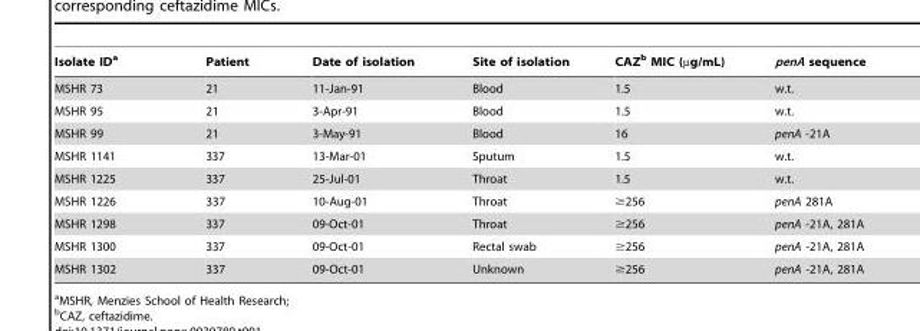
<table><thead><tr><td>Isolate ID<sup>a</sup></td><td>Patient</td><td>Date of isolation</td><td>Site of isolation</td><td>CAZ<sup>b</sup> MIC (µg/mL)</td><td>penA sequence</td></tr></thead><tbody><tr><td>MSHR 73</td><td>21</td><td>11-Jan-91</td><td>Blood</td><td>1.5</td><td>w.t.</td></tr><tr><td>MSHR 95</td><td>21</td><td>3-Apr-91</td><td>Blood</td><td>1.5</td><td>w.t.</td></tr><tr><td>MSHR 99</td><td>21</td><td>3-May-91</td><td>Blood</td><td>16</td><td>penA -21A</td></tr><tr><td>MSHR 1141</td><td>337</td><td>13-Mar-01</td><td>Sputum</td><td>1.5</td><td>w.t.</td></tr><tr><td>MSHR 1225</td><td>337</td><td>25-Jul-01</td><td>Throat</td><td>1.5</td><td>w.t.</td></tr><tr><td>MSHR 1226</td><td>337</td><td>10-Aug-01</td><td>Throat</td><td>≥256</td><td>penA 281A</td></tr><tr><td>MSHR 1298</td><td>337</td><td>09-Oct-01</td><td>Throat</td><td>≥256</td><td>penA -21A, 281A</td></tr><tr><td>MSHR 1300</td><td>337</td><td>09-Oct-01</td><td>Rectal swab</td><td>≥256</td><td>penA -21A, 281A</td></tr><tr><td>MSHR 1302</td><td>337</td><td>09-Oct-01</td><td>Unknown</td><td>≥256</td><td>penA -21A, 281A</td></tr></tbody></table>